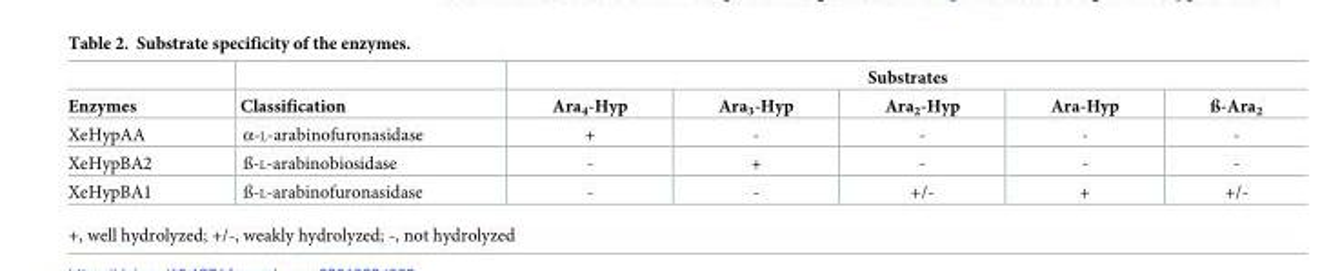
<table><thead><tr><td rowspan="2">Enzymes</td><td rowspan="2">Classification</td><td colspan="5">Substrates</td></tr><tr><td>Ara<sub>4</sub>-Hyp</td><td>Ara<sub>3</sub>-Hyp</td><td>Ara<sub>2</sub>-Hyp</td><td>Ara-Hyp</td><td>ß-Ara<sub>2</sub></td></tr></thead><tbody><tr><td>XeHypAA</td><td>α-L-arabinofuronasidase</td><td>+</td><td>-</td><td>-</td><td>-</td><td>-</td></tr><tr><td>XeHypBA2</td><td>ß-L-arabinobiosidase</td><td>-</td><td>+</td><td>-</td><td>-</td><td>-</td></tr><tr><td>XeHypBA1</td><td>ß-L-arabinofuronasidase</td><td>-</td><td>-</td><td>+/-</td><td>+</td><td>+/-</td></tr></tbody></table>